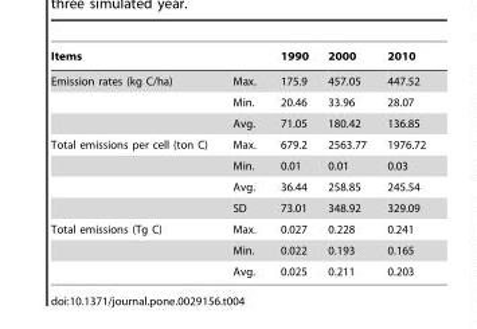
<table><thead><tr><td colspan="2">Items</td><td rowspan="2">1990 175.9</td><td rowspan="2">2000 457.05</td><td rowspan="2">2010 447.52</td></tr><tr><td>Emission rates (kg C/ha)</td><td>Max.</td></tr></thead><tbody><tr><td></td><td>Min.</td><td>20.46</td><td>33.96</td><td>28.07</td></tr><tr><td></td><td>Avg.</td><td>71.05</td><td>180.42</td><td>136.85</td></tr><tr><td rowspan="4">Total emissions per cell (ton C)</td><td>Max.</td><td>679.2</td><td>2563.77</td><td>1976.72</td></tr><tr><td>Min.</td><td>0.01</td><td>0.01</td><td>0.03</td></tr><tr><td>Avg.</td><td>36.44</td><td>258.85</td><td>245.54</td></tr><tr><td>SD</td><td>73.01</td><td>348.92</td><td>329.09</td></tr><tr><td rowspan="3">Total emissions (Tg C)</td><td>Max.</td><td>0.027</td><td>0.228</td><td>0.241</td></tr><tr><td>Min.</td><td>0.022</td><td>0.193</td><td>0.165</td></tr><tr><td>Avg.</td><td>0.025</td><td>0.211</td><td>0.203</td></tr></tbody></table>